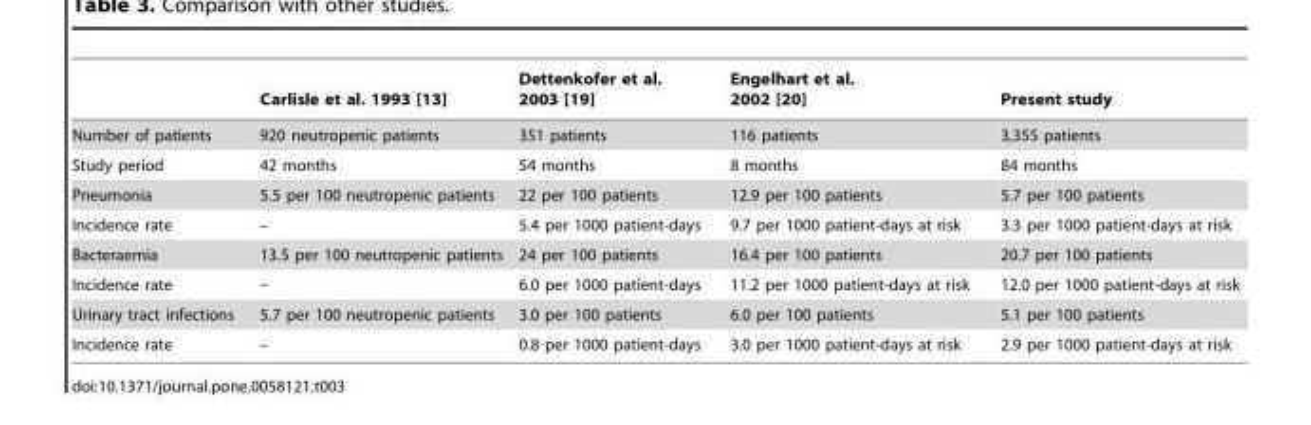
<table><thead><tr><td></td><td>Carlisle et al. 1993 [13]</td><td>Dettenkofer et al. 2003 [19]</td><td>Engelhart et al. 2002 [20]</td><td>Present study</td></tr></thead><tbody><tr><td>Number of patients</td><td>920 neutropenic patients</td><td>351 patients</td><td>116 patients</td><td>3,355 patients</td></tr><tr><td>Study period</td><td>42 months</td><td>54 months</td><td>8 months</td><td>84 months</td></tr><tr><td>Pneumonia</td><td>5.5 per 100 neutropenic patients</td><td>22 per 100 patients</td><td>12.9 per 100 patients</td><td>5.7 per 100 patients</td></tr><tr><td>Incidence rate</td><td>–</td><td>5.4 per 1000 patient-days</td><td>9.7 per 1000 patient-days at risk</td><td>3.3 per 1000 patient-days at risk</td></tr><tr><td>Bacteraemia</td><td>13.5 per 100 neutropenic patients</td><td>24 per 100 patients</td><td>16.4 per 100 patients</td><td>20.7 per 100 patients</td></tr><tr><td>Incidence rate</td><td>–</td><td>6.0 per 1000 patient-days</td><td>11.2 per 1000 patient-days at risk</td><td>12.0 per 1000 patient-days at risk</td></tr><tr><td>Urinary tract infections</td><td>5.7 per 100 neutropenic patients</td><td>3.0 per 100 patients</td><td>6.0 per 100 patients</td><td>5.1 per 100 patients</td></tr><tr><td>Incidence rate</td><td>–</td><td>0.8 per 1000 patient-days</td><td>3.0 per 1000 patient-days at risk</td><td>2.9 per 1000 patient-days at risk</td></tr></tbody></table>